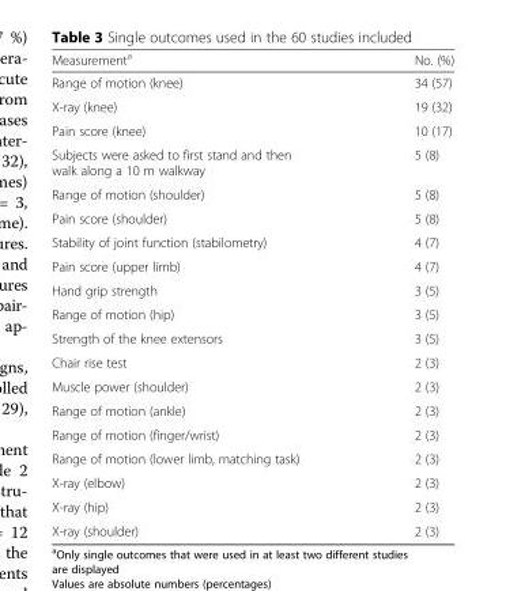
<table><thead><tr><td>Measurement<sup>a</sup></td><td>No. (%)</td></tr></thead><tbody><tr><td>Range of motion (knee)</td><td>34 (57)</td></tr><tr><td>X-ray (knee)</td><td>19 (32)</td></tr><tr><td>Pain score (knee)</td><td>10 (17)</td></tr><tr><td>Subjects were asked to first stand and then walk along a 10 m walkway</td><td>5 (8)</td></tr><tr><td>Range of motion (shoulder)</td><td>5 (8)</td></tr><tr><td>Pain score (shoulder)</td><td>5 (8)</td></tr><tr><td>Stability of joint function (stabilometry)</td><td>4 (7)</td></tr><tr><td>Pain score (upper limb)</td><td>4 (7)</td></tr><tr><td>Hand grip strength</td><td>3 (5)</td></tr><tr><td>Range of motion (hip)</td><td>3 (5)</td></tr><tr><td>Strength of the knee extensors</td><td>3 (5)</td></tr><tr><td>Chair rise test</td><td>2 (3)</td></tr><tr><td>Muscle power (shoulder)</td><td>2 (3)</td></tr><tr><td>Range of motion (ankle)</td><td>2 (3)</td></tr><tr><td>Range of motion (finger/wrist)</td><td>2 (3)</td></tr><tr><td>Range of motion (lower limb, matching task)</td><td>2 (3)</td></tr><tr><td>X-ray (elbow)</td><td>2 (3)</td></tr><tr><td>X-ray (hip)</td><td>2 (3)</td></tr><tr><td>X-ray (shoulder)</td><td>2 (3)</td></tr></tbody></table>